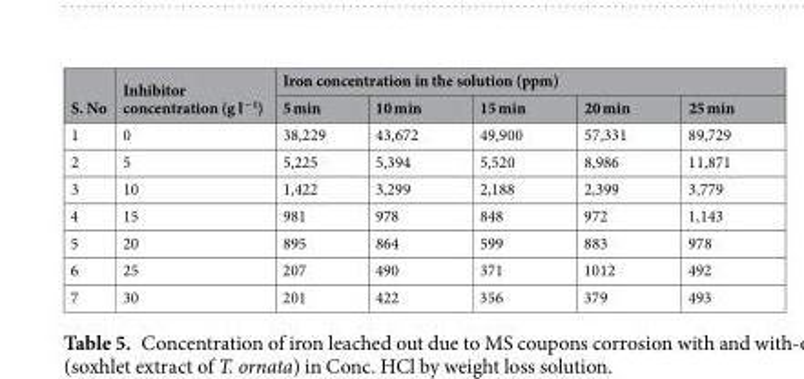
<table><thead><tr><td rowspan="2">S. No</td><td rowspan="2">Inhibitor concentration (g l<sup>−1</sup>)</td><td colspan="5">Iron concentration in the solution (ppm)</td></tr><tr><td>5 min</td><td>10 min</td><td>15 min</td><td>20 min</td><td>25 min</td></tr></thead><tbody><tr><td>1</td><td>0</td><td>38,229</td><td>43,672</td><td>49,900</td><td>57,331</td><td>89,729</td></tr><tr><td>2</td><td>5</td><td>5,225</td><td>5,394</td><td>5,520</td><td>8,986</td><td>11,871</td></tr><tr><td>3</td><td>10</td><td>1,422</td><td>3,299</td><td>2,188</td><td>2,399</td><td>3,779</td></tr><tr><td>4</td><td>15</td><td>981</td><td>978</td><td>848</td><td>972</td><td>1,143</td></tr><tr><td>5</td><td>20</td><td>895</td><td>864</td><td>599</td><td>883</td><td>978</td></tr><tr><td>6</td><td>25</td><td>207</td><td>490</td><td>371</td><td>1012</td><td>492</td></tr><tr><td>7</td><td>30</td><td>201</td><td>422</td><td>356</td><td>379</td><td>493</td></tr></tbody></table>